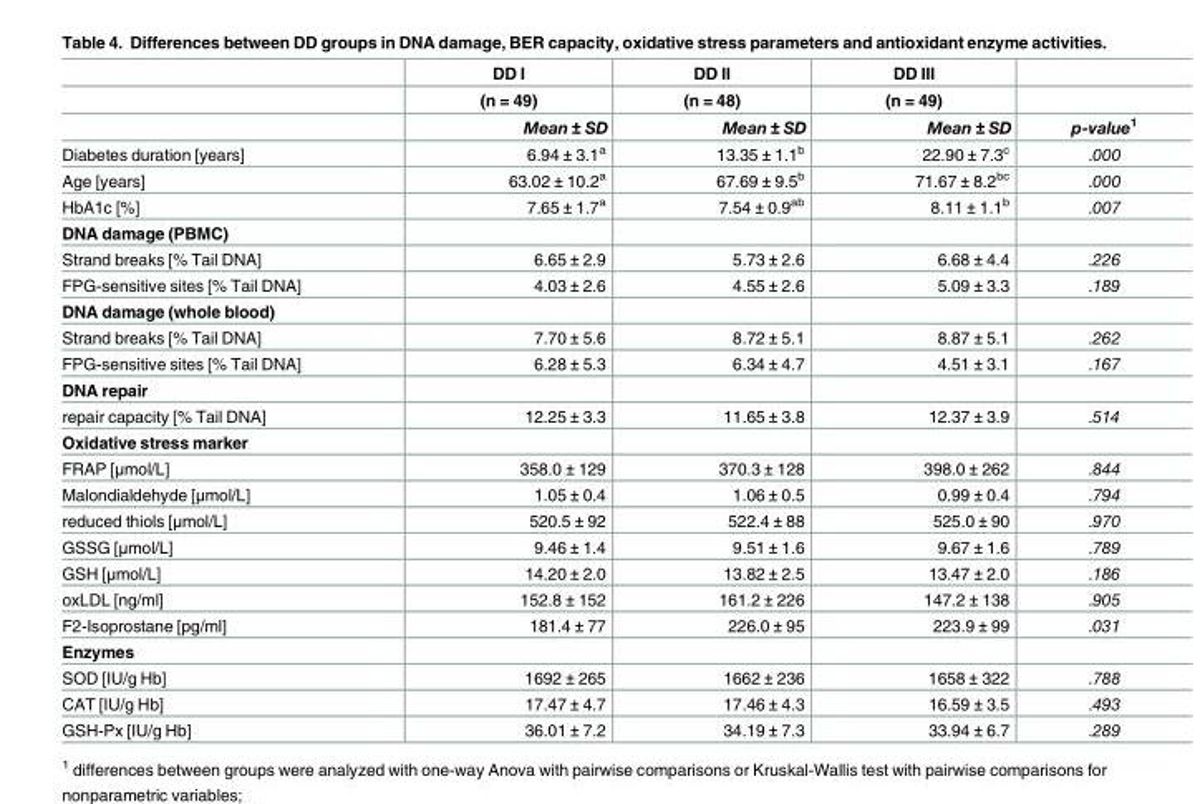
<table><thead><tr><td rowspan="3"></td><td rowspan="3">DD I (n = 49) Mean ± SD</td><td rowspan="3">DD II (n = 48) Mean ± SD</td><td rowspan="3">DD III (n = 49) Mean ± SD</td><td rowspan="3">p-value<sup>1</sup></td></tr><tr></tr><tr></tr></thead><tbody><tr><td>Diabetes duration [years]</td><td>6.94 ± 3.1<sup>a</sup></td><td>13.35 ± 1.1<sup>b</sup></td><td>22.90 ± 7.3<sup>c</sup></td><td>.000</td></tr><tr><td>Age [years]</td><td>63.02 ± 10.2<sup>a</sup></td><td>67.69 ± 9.5<sup>b</sup></td><td>71.67 ± 8.2<sup>bc</sup></td><td>.000</td></tr><tr><td>HbA1c [%]</td><td>7.65 ± 1.7<sup>a</sup></td><td>7.54 ± 0.9<sup>ab</sup></td><td>8.11 ± 1.1<sup>b</sup></td><td>.007</td></tr><tr><td colspan="5">DNA damage (PBMC)</td></tr><tr><td>Strand breaks [% Tail DNA]</td><td>6.65 ± 2.9</td><td>5.73 ± 2.6</td><td>6.68 ± 4.4</td><td>.226</td></tr><tr><td>FPG-sensitive sites [% Tail DNA]</td><td>4.03 ± 2.6</td><td>4.55 ± 2.6</td><td>5.09 ± 3.3</td><td>.189</td></tr><tr><td colspan="5">DNA damage (whole blood)</td></tr><tr><td>Strand breaks [% Tail DNA]</td><td>7.70 ± 5.6</td><td>8.72 ± 5.1</td><td>8.87 ± 5.1</td><td>.262</td></tr><tr><td>FPG-sensitive sites [% Tail DNA]</td><td>6.28 ± 5.3</td><td>6.34 ± 4.7</td><td>4.51 ± 3.1</td><td>.167</td></tr><tr><td colspan="5">DNA repair</td></tr><tr><td>repair capacity [% Tail DNA]</td><td>12.25 ± 3.3</td><td>11.65 ± 3.8</td><td>12.37 ± 3.9</td><td>.514</td></tr><tr><td colspan="5">Oxidative stress marker</td></tr><tr><td>FRAP [μmol/L]</td><td>358.0 ± 129</td><td>370.3 ± 128</td><td>398.0 ± 262</td><td>.844</td></tr><tr><td>Malondialdehyde [μmol/L]</td><td>1.05 ± 0.4</td><td>1.06 ± 0.5</td><td>0.99 ± 0.4</td><td>.794</td></tr><tr><td>reduced thiols [μmol/L]</td><td>520.5 ± 92</td><td>522.4 ± 88</td><td>525.0 ± 90</td><td>.970</td></tr><tr><td>GSSG [μmol/L]</td><td>9.46 ± 1.4</td><td>9.51 ± 1.6</td><td>9.67 ± 1.6</td><td>.789</td></tr><tr><td>GSH [μmol/L]</td><td>14.20 ± 2.0</td><td>13.82 ± 2.5</td><td>13.47 ± 2.0</td><td>.186</td></tr><tr><td>oxLDL [ng/ml]</td><td>152.8 ± 152</td><td>161.2 ± 226</td><td>147.2 ± 138</td><td>.905</td></tr><tr><td>F2-Isoprostane [pg/ml]</td><td>181.4 ± 77</td><td>226.0 ± 95</td><td>223.9 ± 99</td><td>.031</td></tr><tr><td colspan="5">Enzymes</td></tr><tr><td>SOD [IU/g Hb]</td><td>1692 ± 265</td><td>1662 ± 236</td><td>1658 ± 322</td><td>.788</td></tr><tr><td>CAT [IU/g Hb]</td><td>17.47 ± 4.7</td><td>17.46 ± 4.3</td><td>16.59 ± 3.5</td><td>.493</td></tr><tr><td>GSH-Px [IU/g Hb]</td><td>36.01 ± 7.2</td><td>34.19 ± 7.3</td><td>33.94 ± 6.7</td><td>.289</td></tr></tbody></table>